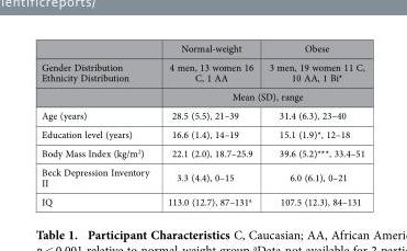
<table><thead><tr><td rowspan="3">Gender Distribution Ethnicity Distribution</td><td rowspan="2">Normal-weight 4 men, 13 women 16 C, 1 AA</td><td rowspan="2">Obese 3 men, 19 women 11 C, 10 AA, 1 Bi*</td></tr><tr></tr><tr><td colspan="2">Mean (SD), range</td></tr></thead><tbody><tr><td>Age (years)</td><td>28.5 (5.5), 21–39</td><td>31.4 (6.3), 23–40</td></tr><tr><td>Education level (years)</td><td>16.6 (1.4), 14–19</td><td>15.1 (1.9)*, 12–18</td></tr><tr><td>Body Mass Index (kg/m<sup>2</sup>)</td><td>22.1 (2.0), 18.7–25.9</td><td>39.6 (5.2)***, 33.4–51</td></tr><tr><td>Beck Depression Inventory II</td><td>3.3 (4.4), 0–15</td><td>6.0 (6.1), 0–21</td></tr><tr><td>IQ</td><td>113.0 (12.7), 87–131<sup>a</sup></td><td>107.5 (12.3), 84–131</td></tr></tbody></table>